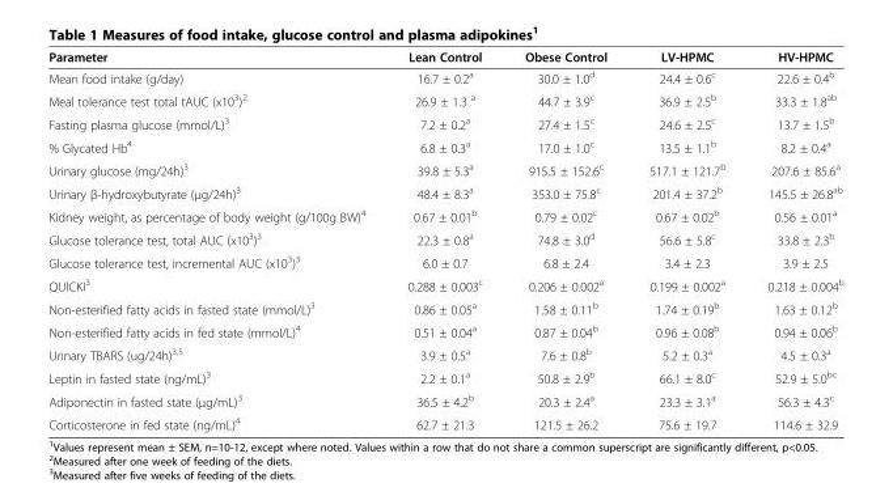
<table><thead><tr><td>Parameter</td><td>Lean Control</td><td>Obese Control</td><td>LV-HPMC</td><td>HV-HPMC</td></tr></thead><tbody><tr><td>Mean food intake (g/day)</td><td>16.7 ± 0.2<sup>a</sup></td><td>30.0 ± 1.0<sup>d</sup></td><td>24.4 ± 0.6<sup>c</sup></td><td>22.6 ± 0.4<sup>b</sup></td></tr><tr><td>Meal tolerance test total tAUC (x10<sup>3</sup>)<sup>2</sup></td><td>26.9 ± 1.3 <sup>a</sup></td><td>44.7 ± 3.9<sup>c</sup></td><td>36.9 ± 2.5<sup>b</sup></td><td>33.3 ± 1.8<sup>ab</sup></td></tr><tr><td>Fasting plasma glucose (mmol/L)<sup>3</sup></td><td>7.2 ± 0.2<sup>a</sup></td><td>27.4 ± 1.5<sup>c</sup></td><td>24.6 ± 2.5<sup>c</sup></td><td>13.7 ± 1.5<sup>b</sup></td></tr><tr><td>% Glycated Hb<sup>4</sup></td><td>6.8 ± 0.3<sup>a</sup></td><td>17.0 ± 1.0<sup>c</sup></td><td>13.5 ± 1.1<sup>b</sup></td><td>8.2 ± 0.4<sup>a</sup></td></tr><tr><td>Urinary glucose (mg/24h)<sup>3</sup></td><td>39.8 ± 5.3<sup>a</sup></td><td>915.5 ± 152.6<sup>c</sup></td><td>517.1 ± 121.7<sup>b</sup></td><td>207.6 ± 85.6<sup>a</sup></td></tr><tr><td>Urinary β-hydroxybutyrate (μg/24h)<sup>3</sup></td><td>48.4 ± 8.3<sup>a</sup></td><td>353.0 ± 75.8<sup>c</sup></td><td>201.4 ± 37.2<sup>b</sup></td><td>145.5 ± 26.8<sup>ab</sup></td></tr><tr><td>Kidney weight, as percentage of body weight (g/100g BW)<sup>4</sup></td><td>0.67 ± 0.01<sup>b</sup></td><td>0.79 ± 0.02<sup>c</sup></td><td>0.67 ± 0.02<sup>b</sup></td><td>0.56 ± 0.01<sup>a</sup></td></tr><tr><td>Glucose tolerance test, total AUC (x10<sup>3</sup>)<sup>3</sup></td><td>22.3 ± 0.8<sup>a</sup></td><td>74.8 ± 3.0<sup>d</sup></td><td>56.6 ± 5.8<sup>c</sup></td><td>33.8 ± 2.3<sup>b</sup></td></tr><tr><td>Glucose tolerance test, incremental AUC (x10<sup>3</sup>)<sup>3</sup></td><td>6.0 ± 0.7</td><td>6.8 ± 2.4</td><td>3.4 ± 2.3</td><td>3.9 ± 2.5</td></tr><tr><td>QUICKI<sup>3</sup></td><td>0.288 ± 0.003<sup>c</sup></td><td>0.206 ± 0.002<sup>a</sup></td><td>0.199 ± 0.002<sup>a</sup></td><td>0.218 ± 0.004<sup>b</sup></td></tr><tr><td>Non-esterified fatty acids in fasted state (mmol/L)<sup>3</sup></td><td>0.86 ± 0.05<sup>a</sup></td><td>1.58 ± 0.11<sup>b</sup></td><td>1.74 ± 0.19<sup>b</sup></td><td>1.63 ± 0.12<sup>b</sup></td></tr><tr><td>Non-esterified fatty acids in fed state (mmol/L)<sup>4</sup></td><td>0.51 ± 0.04<sup>a</sup></td><td>0.87 ± 0.04<sup>b</sup></td><td>0.96 ± 0.08<sup>b</sup></td><td>0.94 ± 0.06<sup>b</sup></td></tr><tr><td>Urinary TBARS (ug/24h)<sup>3,5</sup></td><td>3.9 ± 0.5<sup>a</sup></td><td>7.6 ± 0.8<sup>b</sup></td><td>5.2 ± 0.3<sup>a</sup></td><td>4.5 ± 0.3<sup>a</sup></td></tr><tr><td>Leptin in fasted state (ng/mL)<sup>3</sup></td><td>2.2 ± 0.1<sup>a</sup></td><td>50.8 ± 2.9<sup>b</sup></td><td>66.1 ± 8.0<sup>c</sup></td><td>52.9 ± 5.0<sup>bc</sup></td></tr><tr><td>Adiponectin in fasted state (μg/mL)<sup>3</sup></td><td>36.5 ± 4.2<sup>b</sup></td><td>20.3 ± 2.4<sup>a</sup></td><td>23.3 ± 3.1<sup>a</sup></td><td>56.3 ± 4.3<sup>c</sup></td></tr><tr><td>Corticosterone in fed state (ng/mL)<sup>4</sup></td><td>62.7 ± 21.3</td><td>121.5 ± 26.2</td><td>75.6 ± 19.7</td><td>114.6 ± 32.9</td></tr></tbody></table>